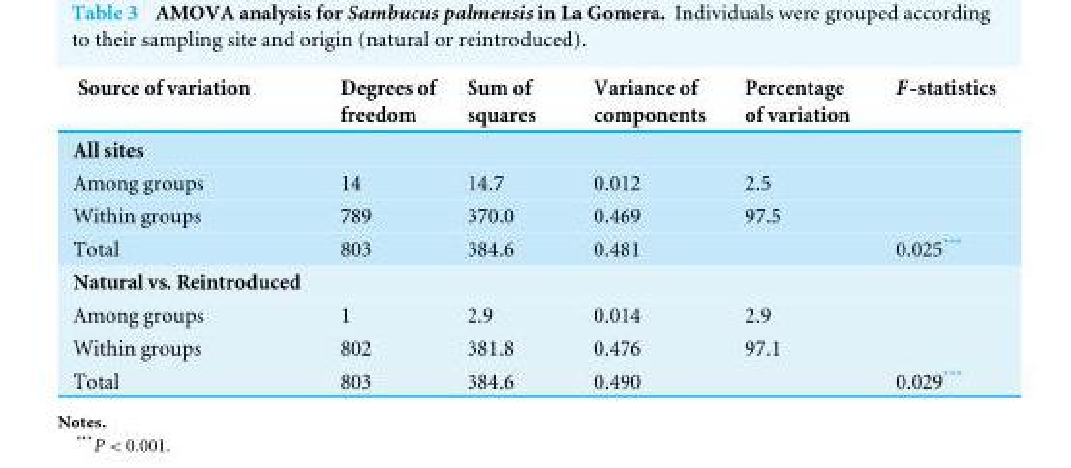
<table><thead><tr><td>Source of variation</td><td>Degrees of freedom</td><td>Sum of squares</td><td>Variance of components</td><td>Percentage of variation</td><td>F-statistics</td></tr></thead><tbody><tr><td colspan="6">All sites</td></tr><tr><td>Among groups</td><td>14</td><td>14.7</td><td>0.012</td><td>2.5</td><td></td></tr><tr><td>Within groups</td><td>789</td><td>370.0</td><td>0.469</td><td>97.5</td><td></td></tr><tr><td>Total</td><td>803</td><td>384.6</td><td>0.481</td><td></td><td>0.025***</td></tr><tr><td colspan="6">Natural vs. Reintroduced</td></tr><tr><td>Among groups</td><td>1</td><td>2.9</td><td>0.014</td><td>2.9</td><td></td></tr><tr><td>Within groups</td><td>802</td><td>381.8</td><td>0.476</td><td>97.1</td><td></td></tr><tr><td>Total</td><td>803</td><td>384.6</td><td>0.490</td><td></td><td>0.029***</td></tr></tbody></table>